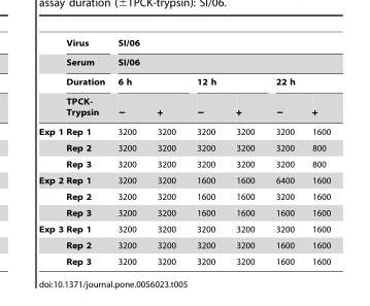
<table><thead><tr><td rowspan="4"></td><td rowspan="4">Virus Serum Duration TPCK- Trypsin</td><td rowspan="2" colspan="6">SI/06 SI/06</td></tr><tr></tr><tr><td colspan="2">6 h</td><td colspan="2">12 h</td><td colspan="2">22 h</td></tr><tr><td>−</td><td>+</td><td>−</td><td>+</td><td>−</td><td>+</td></tr></thead><tbody><tr><td rowspan="3">Exp 1</td><td>Rep 1</td><td>3200</td><td>3200</td><td>3200</td><td>3200</td><td>3200</td><td>1600</td></tr><tr><td>Rep 2</td><td>3200</td><td>3200</td><td>3200</td><td>3200</td><td>3200</td><td>800</td></tr><tr><td>Rep 3</td><td>3200</td><td>3200</td><td>3200</td><td>3200</td><td>3200</td><td>800</td></tr><tr><td rowspan="3">Exp 2</td><td>Rep 1</td><td>3200</td><td>3200</td><td>1600</td><td>1600</td><td>6400</td><td>1600</td></tr><tr><td>Rep 2</td><td>3200</td><td>3200</td><td>1600</td><td>1600</td><td>3200</td><td>1600</td></tr><tr><td>Rep 3</td><td>3200</td><td>3200</td><td>1600</td><td>1600</td><td>1600</td><td>1600</td></tr><tr><td rowspan="3">Exp 3</td><td>Rep 1</td><td>3200</td><td>3200</td><td>3200</td><td>3200</td><td>3200</td><td>1600</td></tr><tr><td>Rep 2</td><td>3200</td><td>3200</td><td>3200</td><td>3200</td><td>1600</td><td>1600</td></tr><tr><td>Rep 3</td><td>3200</td><td>3200</td><td>3200</td><td>3200</td><td>1600</td><td>1600</td></tr></tbody></table>